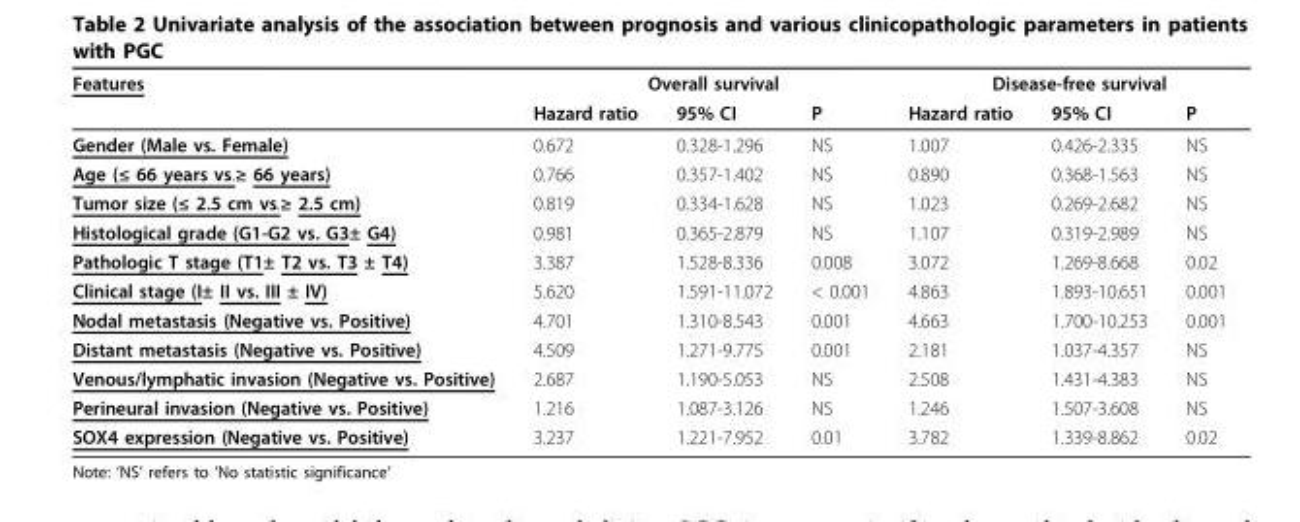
<table><thead><tr><td rowspan="2">Features</td><td colspan="3">Overall survival</td><td colspan="3">Disease-free survival</td></tr><tr><td>Hazard ratio</td><td>95% CI</td><td>P</td><td>Hazard ratio</td><td>95% CI</td><td>P</td></tr></thead><tbody><tr><td>Gender (Male vs. Female)</td><td>0.672</td><td>0.328-1.296</td><td>NS</td><td>1.007</td><td>0.426-2.335</td><td>NS</td></tr><tr><td>Age (≤ 66 years vs.≥ 66 years)</td><td>0.766</td><td>0.357-1.402</td><td>NS</td><td>0.890</td><td>0.368-1.563</td><td>NS</td></tr><tr><td>Tumor size (≤ 2.5 cm vs.≥ 2.5 cm)</td><td>0.819</td><td>0.334-1.628</td><td>NS</td><td>1.023</td><td>0.269-2.682</td><td>NS</td></tr><tr><td>Histological grade (G1-G2 vs. G3± G4)</td><td>0.981</td><td>0.365-2.879</td><td>NS</td><td>1.107</td><td>0.319-2.989</td><td>NS</td></tr><tr><td>Pathologic T stage (T1± T2 vs. T3 ± T4)</td><td>3.387</td><td>1.528-8.336</td><td>0.008</td><td>3.072</td><td>1.269-8.668</td><td>0.02</td></tr><tr><td>Clinical stage (I± II vs. III ± IV)</td><td>5.620</td><td>1.591-11.072</td><td>&lt; 0.001</td><td>4.863</td><td>1.893-10.651</td><td>0.001</td></tr><tr><td>Nodal metastasis (Negative vs. Positive)</td><td>4.701</td><td>1.310-8.543</td><td>0.001</td><td>4.663</td><td>1.700-10.253</td><td>0.001</td></tr><tr><td>Distant metastasis (Negative vs. Positive)</td><td>4.509</td><td>1.271-9.775</td><td>0.001</td><td>2.181</td><td>1.037-4.357</td><td>NS</td></tr><tr><td>Venous/lymphatic invasion (Negative vs. Positive)</td><td>2.687</td><td>1.190-5.053</td><td>NS</td><td>2.508</td><td>1.431-4.383</td><td>NS</td></tr><tr><td>Perineural invasion (Negative vs. Positive)</td><td>1.216</td><td>1.087-3.126</td><td>NS</td><td>1.246</td><td>1.507-3.608</td><td>NS</td></tr><tr><td>SOX4 expression (Negative vs. Positive)</td><td>3.237</td><td>1.221-7.952</td><td>0.01</td><td>3.782</td><td>1.339-8.862</td><td>0.02</td></tr></tbody></table>